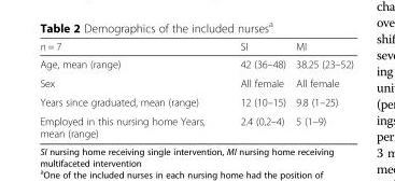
<table><thead><tr><td>n = 7</td><td>SI</td><td>MI</td></tr></thead><tbody><tr><td>Age, mean (range)</td><td>42 (36–48)</td><td>38.25 (23–52)</td></tr><tr><td>Sex</td><td>All female</td><td>All female</td></tr><tr><td>Years since graduated, mean (range)</td><td>12 (10–15)</td><td>9.8 (1–25)</td></tr><tr><td>Employed in this nursing home Years, mean (range)</td><td>2.4 (0,2–4)</td><td>5 (1–9)</td></tr></tbody></table>